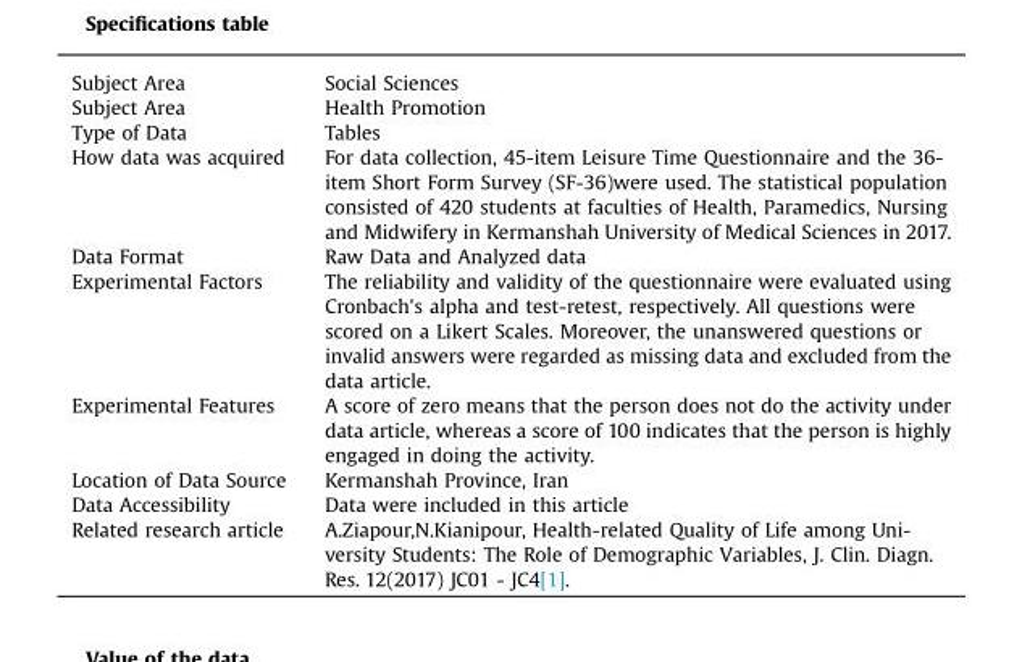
<table><thead><tr><td>Subject Area</td><td>Social Sciences</td></tr></thead><tbody><tr><td>Subject Area</td><td>Health Promotion</td></tr><tr><td>Type of Data</td><td>Tables</td></tr><tr><td>How data was acquired</td><td>For data collection, 45-item Leisure Time Questionnaire and the 36- item Short Form Survey (SF-36)were used. The statistical population consisted of 420 students at faculties of Health, Paramedics, Nursing and Midwifery in Kermanshah University of Medical Sciences in 2017.</td></tr><tr><td>Data Format</td><td>Raw Data and Analyzed data</td></tr><tr><td>Experimental Factors</td><td>The reliability and validity of the questionnaire were evaluated using Cronbach&#x27;s alpha and test-retest, respectively. All questions were scored on a Likert Scales. Moreover, the unanswered questions or invalid answers were regarded as missing data and excluded from the data article.</td></tr><tr><td>Experimental Features</td><td>A score of zero means that the person does not do the activity under data article, whereas a score of 100 indicates that the person is highly engaged in doing the activity.</td></tr><tr><td>Location of Data Source</td><td>Kermanshah Province, Iran</td></tr><tr><td>Data Accessibility</td><td>Data were included in this article</td></tr><tr><td>Related research article</td><td>A.Ziapour,N.Kianipour, Health-related Quality of Life among Uni- versity Students: The Role of Demographic Variables, J. Clin. Diagn. Res. 12(2017) JC01 - JC4[1].</td></tr></tbody></table>